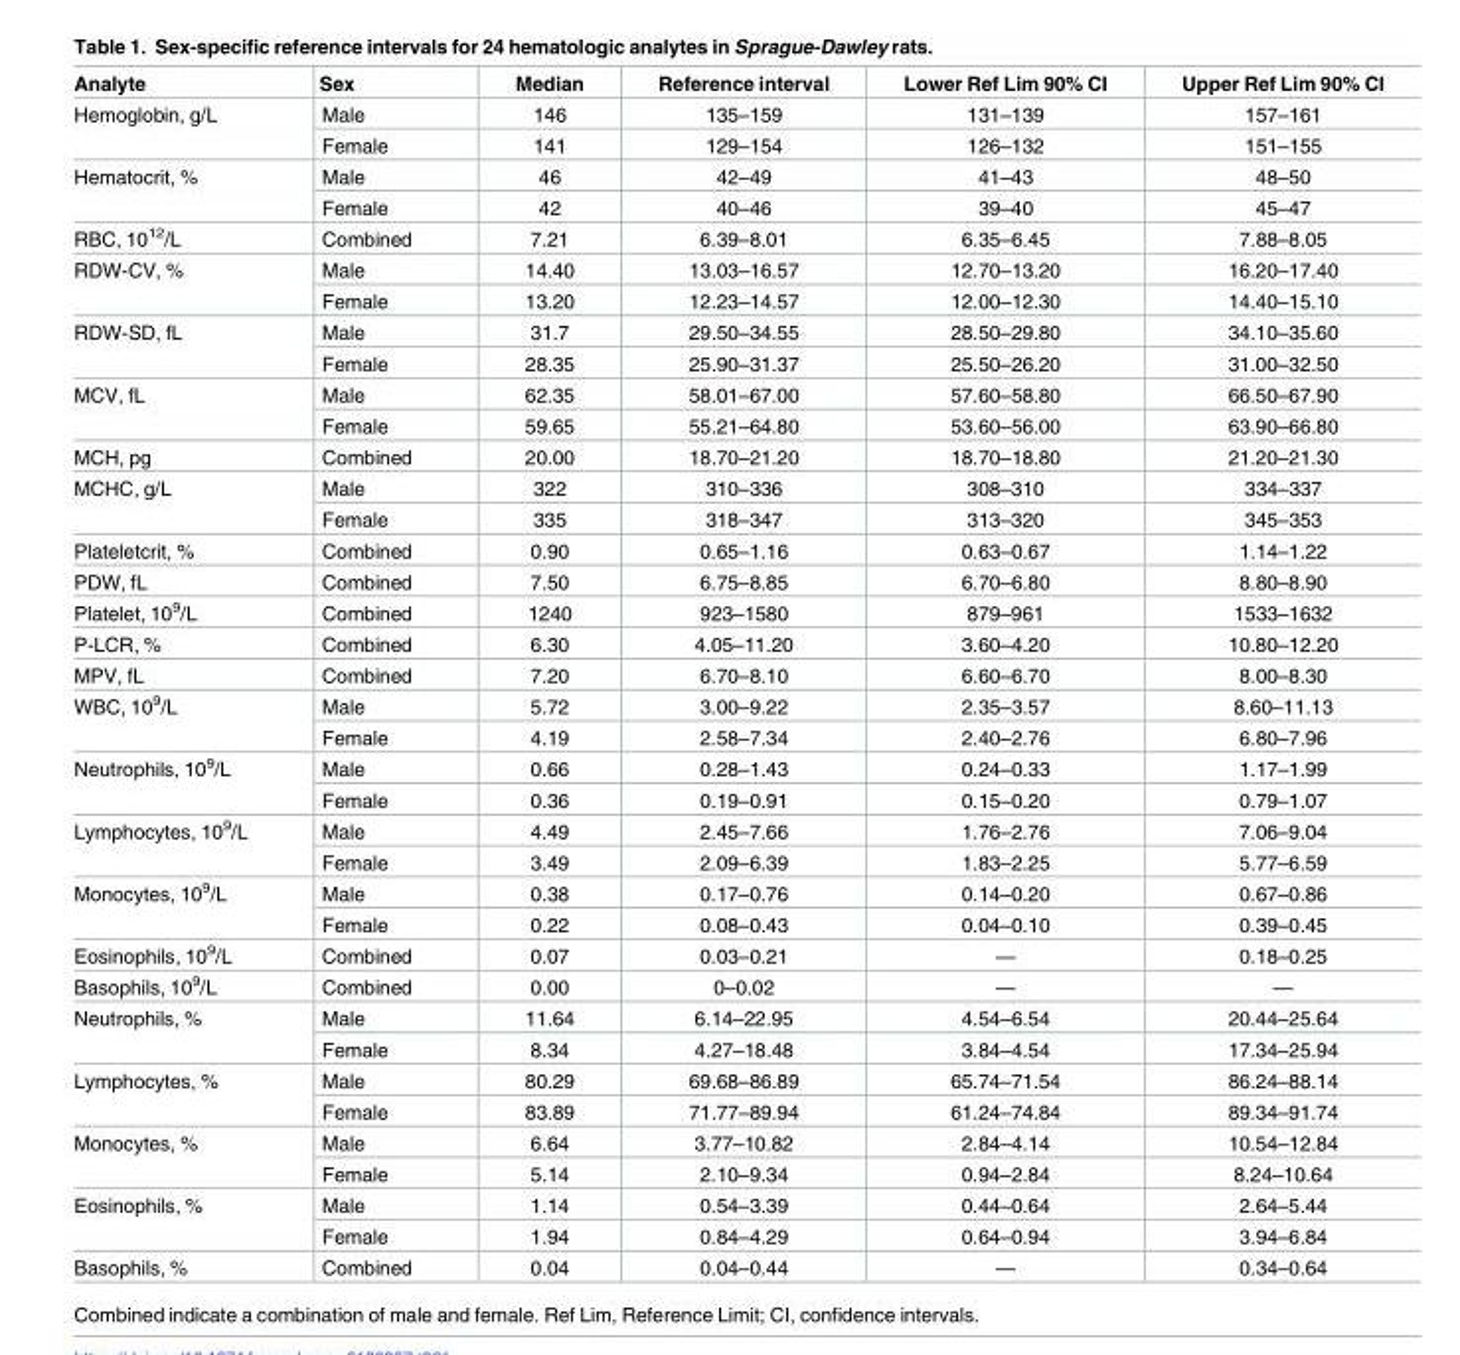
<table><thead><tr><td>Analyte</td><td>Sex</td><td>Median</td><td>Reference interval</td><td>Lower Ref Lim 90% CI</td><td>Upper Ref Lim 90% CI</td></tr></thead><tbody><tr><td rowspan="2">Hemoglobin, g/L</td><td>Male</td><td>146</td><td>135–159</td><td>131–139</td><td>157–161</td></tr><tr><td>Female</td><td>141</td><td>129–154</td><td>126–132</td><td>151–155</td></tr><tr><td rowspan="2">Hematocrit, %</td><td>Male</td><td>46</td><td>42–49</td><td>41–43</td><td>48–50</td></tr><tr><td>Female</td><td>42</td><td>40–46</td><td>39–40</td><td>45–47</td></tr><tr><td>RBC, 10<sup>12</sup>/L</td><td>Combined</td><td>7.21</td><td>6.39–8.01</td><td>6.35–6.45</td><td>7.88–8.05</td></tr><tr><td rowspan="2">RDW-CV, %</td><td>Male</td><td>14.40</td><td>13.03–16.57</td><td>12.70–13.20</td><td>16.20–17.40</td></tr><tr><td>Female</td><td>13.20</td><td>12.23–14.57</td><td>12.00–12.30</td><td>14.40–15.10</td></tr><tr><td rowspan="2">RDW-SD, fL</td><td>Male</td><td>31.7</td><td>29.50–34.55</td><td>28.50–29.80</td><td>34.10–35.60</td></tr><tr><td>Female</td><td>28.35</td><td>25.90–31.37</td><td>25.50–26.20</td><td>31.00–32.50</td></tr><tr><td rowspan="2">MCV, fL</td><td>Male</td><td>62.35</td><td>58.01–67.00</td><td>57.60–58.80</td><td>66.50–67.90</td></tr><tr><td>Female</td><td>59.65</td><td>55.21–64.80</td><td>53.60–56.00</td><td>63.90–66.80</td></tr><tr><td>MCH, pg</td><td>Combined</td><td>20.00</td><td>18.70–21.20</td><td>18.70–18.80</td><td>21.20–21.30</td></tr><tr><td rowspan="2">MCHC, g/L</td><td>Male</td><td>322</td><td>310–336</td><td>308–310</td><td>334–337</td></tr><tr><td>Female</td><td>335</td><td>318–347</td><td>313–320</td><td>345–353</td></tr><tr><td>Plateletcrit, %</td><td>Combined</td><td>0.90</td><td>0.65–1.16</td><td>0.63–0.67</td><td>1.14–1.22</td></tr><tr><td>PDW, fL</td><td>Combined</td><td>7.50</td><td>6.75–8.85</td><td>6.70–6.80</td><td>8.80–8.90</td></tr><tr><td>Platelet, 10<sup>9</sup>/L</td><td>Combined</td><td>1240</td><td>923–1580</td><td>879–961</td><td>1533–1632</td></tr><tr><td>P-LCR, %</td><td>Combined</td><td>6.30</td><td>4.05–11.20</td><td>3.60–4.20</td><td>10.80–12.20</td></tr><tr><td>MPV, fL</td><td>Combined</td><td>7.20</td><td>6.70–8.10</td><td>6.60–6.70</td><td>8.00–8.30</td></tr><tr><td rowspan="2">WBC, 10<sup>9</sup>/L</td><td>Male</td><td>5.72</td><td>3.00–9.22</td><td>2.35–3.57</td><td>8.60–11.13</td></tr><tr><td>Female</td><td>4.19</td><td>2.58–7.34</td><td>2.40–2.76</td><td>6.80–7.96</td></tr><tr><td rowspan="2">Neutrophils, 10<sup>9</sup>/L</td><td>Male</td><td>0.66</td><td>0.28–1.43</td><td>0.24–0.33</td><td>1.17–1.99</td></tr><tr><td>Female</td><td>0.36</td><td>0.19–0.91</td><td>0.15–0.20</td><td>0.79–1.07</td></tr><tr><td rowspan="2">Lymphocytes, 10<sup>9</sup>/L</td><td>Male</td><td>4.49</td><td>2.45–7.66</td><td>1.76–2.76</td><td>7.06–9.04</td></tr><tr><td>Female</td><td>3.49</td><td>2.09–6.39</td><td>1.83–2.25</td><td>5.77–6.59</td></tr><tr><td rowspan="2">Monocytes, 10<sup>9</sup>/L</td><td>Male</td><td>0.38</td><td>0.17–0.76</td><td>0.14–0.20</td><td>0.67–0.86</td></tr><tr><td>Female</td><td>0.22</td><td>0.08–0.43</td><td>0.04–0.10</td><td>0.39–0.45</td></tr><tr><td>Eosinophils, 10<sup>9</sup>/L</td><td>Combined</td><td>0.07</td><td>0.03–0.21</td><td>—</td><td>0.18–0.25</td></tr><tr><td>Basophils, 10<sup>9</sup>/L</td><td>Combined</td><td>0.00</td><td>0–0.02</td><td>—</td><td>—</td></tr><tr><td rowspan="2">Neutrophils, %</td><td>Male</td><td>11.64</td><td>6.14–22.95</td><td>4.54–6.54</td><td>20.44–25.64</td></tr><tr><td>Female</td><td>8.34</td><td>4.27–18.48</td><td>3.84–4.54</td><td>17.34–25.94</td></tr><tr><td rowspan="2">Lymphocytes, %</td><td>Male</td><td>80.29</td><td>69.68–86.89</td><td>65.74–71.54</td><td>86.24–88.14</td></tr><tr><td>Female</td><td>83.89</td><td>71.77–89.94</td><td>61.24–74.84</td><td>89.34–91.74</td></tr><tr><td rowspan="2">Monocytes, %</td><td>Male</td><td>6.64</td><td>3.77–10.82</td><td>2.84–4.14</td><td>10.54–12.84</td></tr><tr><td>Female</td><td>5.14</td><td>2.10–9.34</td><td>0.94–2.84</td><td>8.24–10.64</td></tr><tr><td rowspan="2">Eosinophils, %</td><td>Male</td><td>1.14</td><td>0.54–3.39</td><td>0.44–0.64</td><td>2.64–5.44</td></tr><tr><td>Female</td><td>1.94</td><td>0.84–4.29</td><td>0.64–0.94</td><td>3.94–6.84</td></tr><tr><td>Basophils, %</td><td>Combined</td><td>0.04</td><td>0.04–0.44</td><td>—</td><td>0.34–0.64</td></tr></tbody></table>